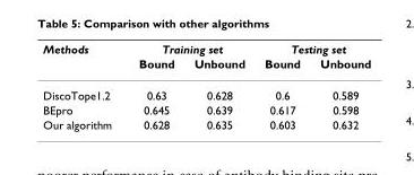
<table><thead><tr><td rowspan="2">Methods</td><td colspan="2">Training set</td><td colspan="2">Testing set</td></tr><tr><td>Bound</td><td>Unbound</td><td>Bound</td><td>Unbound</td></tr></thead><tbody><tr><td>DiscoTope1.2</td><td>0.63</td><td>0.628</td><td>0.6</td><td>0.589</td></tr><tr><td>BEpro</td><td>0.645</td><td>0.639</td><td>0.617</td><td>0.598</td></tr><tr><td>Our algorithm</td><td>0.628</td><td>0.635</td><td>0.603</td><td>0.632</td></tr></tbody></table>